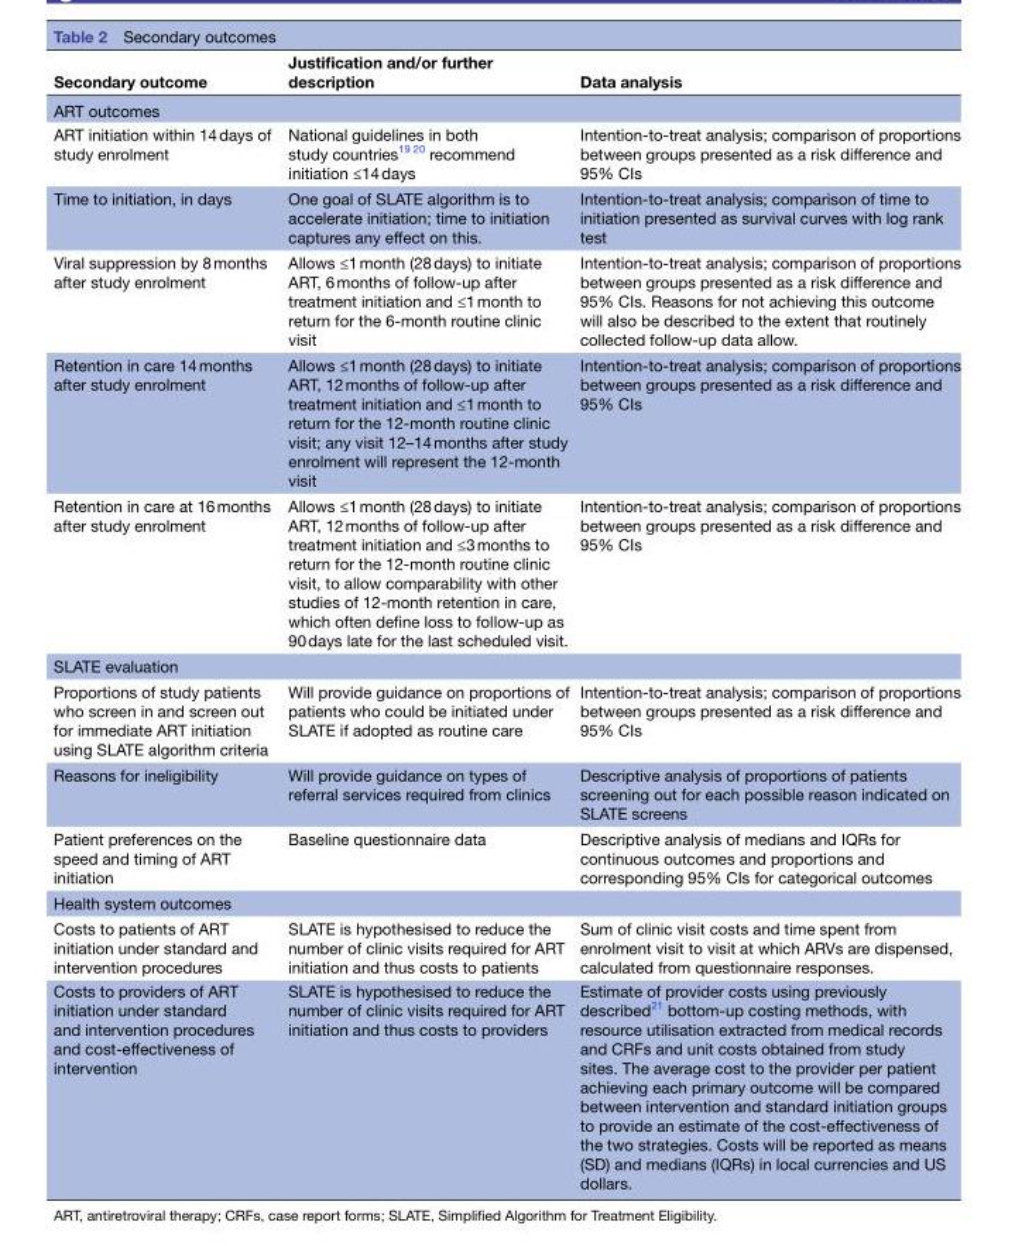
<table><thead><tr><td>Secondary outcome</td><td>Justification and/or further description</td><td>Data analysis</td></tr></thead><tbody><tr><td colspan="3">ART outcomes</td></tr><tr><td>ART initiation within 14 days of study enrolment</td><td>National guidelines in both study countries<sup>19 20</sup> recommend initiation ≤14 days</td><td>Intention-to-treat analysis; comparison of proportions between groups presented as a risk difference and 95% CIs</td></tr><tr><td>Time to initiation, in days</td><td>One goal of SLATE algorithm is to accelerate initiation; time to initiation captures any effect on this.</td><td>Intention-to-treat analysis; comparison of time to initiation presented as survival curves with log rank test</td></tr><tr><td>Viral suppression by 8 months after study enrolment</td><td>Allows ≤1 month (28 days) to initiate ART, 6 months of follow-up after treatment initiation and ≤1 month to return for the 6-month routine clinic visit</td><td>Intention-to-treat analysis; comparison of proportions between groups presented as a risk difference and 95% CIs. Reasons for not achieving this outcome will also be described to the extent that routinely collected follow-up data allow.</td></tr><tr><td>Retention in care 14 months after study enrolment</td><td>Allows ≤1 month (28 days) to initiate ART, 12 months of follow-up after treatment initiation and ≤1 month to return for the 12-month routine clinic visit; any visit 12–14 months after study enrolment will represent the 12-month visit</td><td>Intention-to-treat analysis; comparison of proportions between groups presented as a risk difference and 95% CIs</td></tr><tr><td>Retention in care at 16 months after study enrolment</td><td>Allows ≤1 month (28 days) to initiate ART, 12 months of follow-up after treatment initiation and ≤3 months to return for the 12-month routine clinic visit, to allow comparability with other studies of 12-month retention in care, which often define loss to follow-up as 90 days late for the last scheduled visit.</td><td>Intention-to-treat analysis; comparison of proportions between groups presented as a risk difference and 95% CIs</td></tr><tr><td colspan="3">SLATE evaluation</td></tr><tr><td>Proportions of study patients who screen in and screen out for immediate ART initiation using SLATE algorithm criteria</td><td>Will provide guidance on proportions of patients who could be initiated under SLATE if adopted as routine care</td><td>Intention-to-treat analysis; comparison of proportions between groups presented as a risk difference and 95% CIs</td></tr><tr><td>Reasons for ineligibility</td><td>Will provide guidance on types of referral services required from clinics</td><td>Descriptive analysis of proportions of patients screening out for each possible reason indicated on SLATE screens</td></tr><tr><td>Patient preferences on the speed and timing of ART initiation</td><td>Baseline questionnaire data</td><td>Descriptive analysis of medians and IQRs for continuous outcomes and proportions and corresponding 95% CIs for categorical outcomes</td></tr><tr><td colspan="3">Health system outcomes</td></tr><tr><td>Costs to patients of ART initiation under standard and intervention procedures</td><td>SLATE is hypothesised to reduce the number of clinic visits required for ART initiation and thus costs to patients</td><td>Sum of clinic visit costs and time spent from enrolment visit to visit at which ARVs are dispensed, calculated from questionnaire responses.</td></tr><tr><td>Costs to providers of ART initiation under standard and intervention procedures and cost-effectiveness of intervention</td><td>SLATE is hypothesised to reduce the number of clinic visits required for ART initiation and thus costs to providers</td><td>Estimate of provider costs using previously described<sup>21</sup> bottom-up costing methods, with resource utilisation extracted from medical records and CRFs and unit costs obtained from study sites. The average cost to the provider per patient achieving each primary outcome will be compared between intervention and standard initiation groups to provide an estimate of the cost-effectiveness of the two strategies. Costs will be reported as means (SD) and medians (IQRs) in local currencies and US dollars.</td></tr></tbody></table>